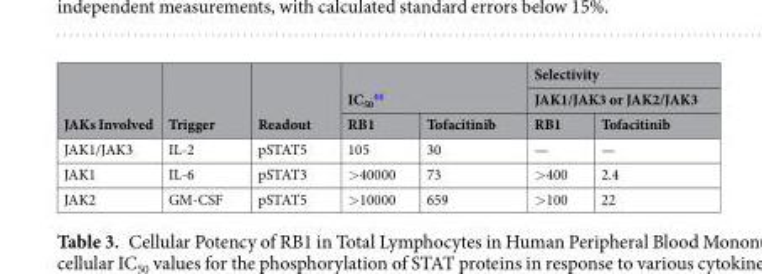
<table><thead><tr><td rowspan="3">JAKs Involved</td><td rowspan="3">Trigger</td><td rowspan="3">Readout</td><td rowspan="2" colspan="2">IC<sub>50</sub> <sup>44</sup></td><td rowspan="2" colspan="2">Selectivity JAK1/JAK3 or JAK2/JAK3</td></tr><tr></tr><tr><td>RB1</td><td>Tofacitinib</td><td>RB1</td><td>Tofacitinib</td></tr></thead><tbody><tr><td>JAK1/JAK3</td><td>IL-2</td><td>pSTAT5</td><td>105</td><td>30</td><td>—</td><td>—</td></tr><tr><td>JAK1</td><td>IL-6</td><td>pSTAT3</td><td>&gt;40000</td><td>73</td><td>&gt;400</td><td>2.4</td></tr><tr><td>JAK2</td><td>GM-CSF</td><td>pSTAT5</td><td>&gt;10000</td><td>659</td><td>&gt;100</td><td>22</td></tr></tbody></table>